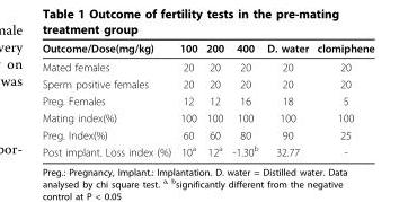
<table><thead><tr><td>Outcome/Dose(mg/kg)</td><td>100</td><td>200</td><td>400</td><td>D. water</td><td>clomiphene</td></tr></thead><tbody><tr><td>Mated females</td><td>20</td><td>20</td><td>20</td><td>20</td><td>20</td></tr><tr><td>Sperm positive females</td><td>20</td><td>20</td><td>20</td><td>20</td><td>20</td></tr><tr><td>Preg. Females</td><td>12</td><td>12</td><td>16</td><td>18</td><td>5</td></tr><tr><td>Mating index(%)</td><td>100</td><td>100</td><td>100</td><td>100</td><td>100</td></tr><tr><td>Preg. Index(%)</td><td>60</td><td>60</td><td>80</td><td>90</td><td>25</td></tr><tr><td>Post implant. Loss index (%)</td><td>10<sup>a</sup></td><td>12<sup>a</sup></td><td>-1.30<sup>b</sup></td><td>32.77</td><td>-</td></tr></tbody></table>